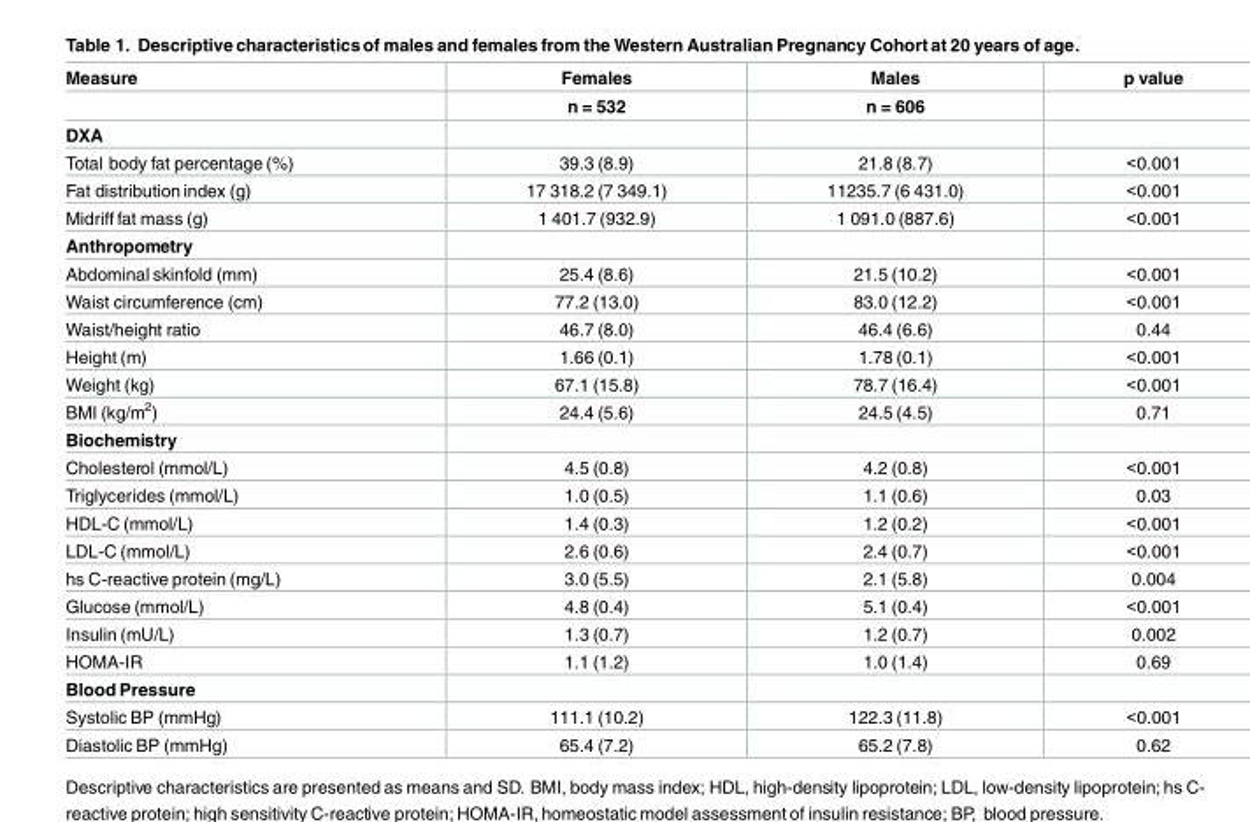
<table><thead><tr><td rowspan="2">Measure</td><td rowspan="2">Females n = 532</td><td rowspan="2">Males n = 606</td><td rowspan="2">p value</td></tr><tr></tr></thead><tbody><tr><td colspan="4">DXA</td></tr><tr><td>Total body fat percentage (%)</td><td>39.3 (8.9)</td><td>21.8 (8.7)</td><td>&lt;0.001</td></tr><tr><td>Fat distribution index (g)</td><td>17 318.2 (7 349.1)</td><td>11235.7 (6 431.0)</td><td>&lt;0.001</td></tr><tr><td>Midriff fat mass (g)</td><td>1 401.7 (932.9)</td><td>1 091.0 (887.6)</td><td>&lt;0.001</td></tr><tr><td colspan="4">Anthropometry</td></tr><tr><td>Abdominal skinfold (mm)</td><td>25.4 (8.6)</td><td>21.5 (10.2)</td><td>&lt;0.001</td></tr><tr><td>Waist circumference (cm)</td><td>77.2 (13.0)</td><td>83.0 (12.2)</td><td>&lt;0.001</td></tr><tr><td>Waist/height ratio</td><td>46.7 (8.0)</td><td>46.4 (6.6)</td><td>0.44</td></tr><tr><td>Height (m)</td><td>1.66 (0.1)</td><td>1.78 (0.1)</td><td>&lt;0.001</td></tr><tr><td>Weight (kg)</td><td>67.1 (15.8)</td><td>78.7 (16.4)</td><td>&lt;0.001</td></tr><tr><td>BMI (kg/m<sup>2</sup>)</td><td>24.4 (5.6)</td><td>24.5 (4.5)</td><td>0.71</td></tr><tr><td colspan="4">Biochemistry</td></tr><tr><td>Cholesterol (mmol/L)</td><td>4.5 (0.8)</td><td>4.2 (0.8)</td><td>&lt;0.001</td></tr><tr><td>Triglycerides (mmol/L)</td><td>1.0 (0.5)</td><td>1.1 (0.6)</td><td>0.03</td></tr><tr><td>HDL-C (mmol/L)</td><td>1.4 (0.3)</td><td>1.2 (0.2)</td><td>&lt;0.001</td></tr><tr><td>LDL-C (mmol/L)</td><td>2.6 (0.6)</td><td>2.4 (0.7)</td><td>&lt;0.001</td></tr><tr><td>hs C-reactive protein (mg/L)</td><td>3.0 (5.5)</td><td>2.1 (5.8)</td><td>0.004</td></tr><tr><td>Glucose (mmol/L)</td><td>4.8 (0.4)</td><td>5.1 (0.4)</td><td>&lt;0.001</td></tr><tr><td>Insulin (mU/L)</td><td>1.3 (0.7)</td><td>1.2 (0.7)</td><td>0.002</td></tr><tr><td>HOMA-IR</td><td>1.1 (1.2)</td><td>1.0 (1.4)</td><td>0.69</td></tr><tr><td colspan="4">Blood Pressure</td></tr><tr><td>Systolic BP (mmHg)</td><td>111.1 (10.2)</td><td>122.3 (11.8)</td><td>&lt;0.001</td></tr><tr><td>Diastolic BP (mmHg)</td><td>65.4 (7.2)</td><td>65.2 (7.8)</td><td>0.62</td></tr></tbody></table>